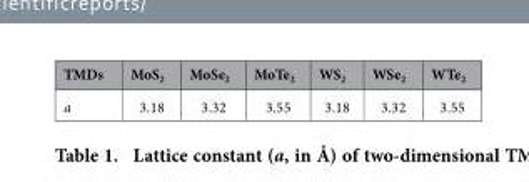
<table><thead><tr><td>TMDs</td><td>MoS<sub>2</sub></td><td>MoSe<sub>2</sub></td><td>MoTe<sub>2</sub></td><td>WS<sub>2</sub></td><td>WSe<sub>2</sub></td><td>WTe<sub>2</sub></td></tr></thead><tbody><tr><td>a</td><td>3.18</td><td>3.32</td><td>3.55</td><td>3.18</td><td>3.32</td><td>3.55</td></tr></tbody></table>